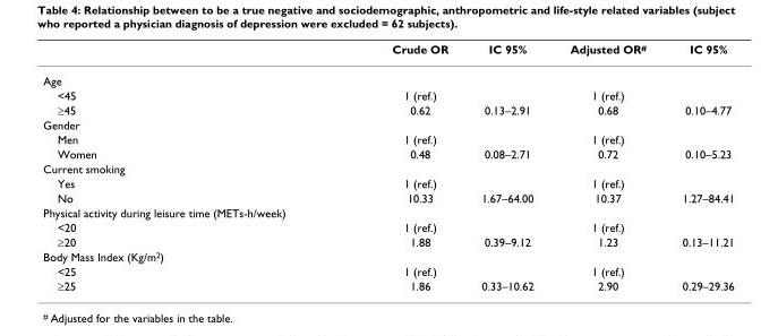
<table><thead><tr><td></td><td>Crude OR</td><td>IC 95%</td><td>Adjusted OR<sup>#</sup></td><td>IC 95%</td></tr></thead><tbody><tr><td colspan="5">Age</td></tr><tr><td>&lt;45</td><td>1 (ref.)</td><td></td><td>1 (ref.)</td><td></td></tr><tr><td>≥45</td><td>0.62</td><td>0.13–2.91</td><td>0.68</td><td>0.10–4.77</td></tr><tr><td colspan="5">Gender</td></tr><tr><td>Men</td><td>1 (ref.)</td><td></td><td>1 (ref.)</td><td></td></tr><tr><td>Women</td><td>0.48</td><td>0.08–2.71</td><td>0.72</td><td>0.10–5.23</td></tr><tr><td colspan="5">Current smoking</td></tr><tr><td>Yes</td><td>1 (ref.)</td><td></td><td>1 (ref.)</td><td></td></tr><tr><td>No</td><td>10.33</td><td>1.67–64.00</td><td>10.37</td><td>1.27–84.41</td></tr><tr><td colspan="5">Physical activity during leisure time (METs-h/week)</td></tr><tr><td>&lt;20</td><td>1 (ref.)</td><td></td><td>1 (ref.)</td><td></td></tr><tr><td>≥20</td><td>1.88</td><td>0.39–9.12</td><td>1.23</td><td>0.13–11.21</td></tr><tr><td colspan="5">Body Mass Index (Kg/m<sup>2</sup>)</td></tr><tr><td>&lt;25</td><td>1 (ref.)</td><td></td><td>1 (ref.)</td><td></td></tr><tr><td>≥25</td><td>1.86</td><td>0.33–10.62</td><td>2.90</td><td>0.29–29.36</td></tr></tbody></table>